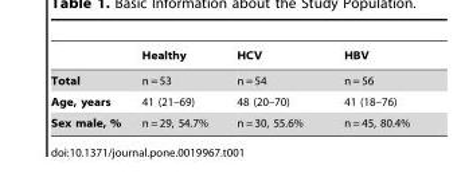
<table><thead><tr><td></td><td>Healthy</td><td>HCV</td><td>HBV</td></tr></thead><tbody><tr><td>Total</td><td>n = 53</td><td>n = 54</td><td>n = 56</td></tr><tr><td>Age, years</td><td>41 (21–69)</td><td>48 (20–70)</td><td>41 (18–76)</td></tr><tr><td>Sex male, %</td><td>n = 29, 54.7%</td><td>n = 30, 55.6%</td><td>n = 45, 80.4%</td></tr></tbody></table>